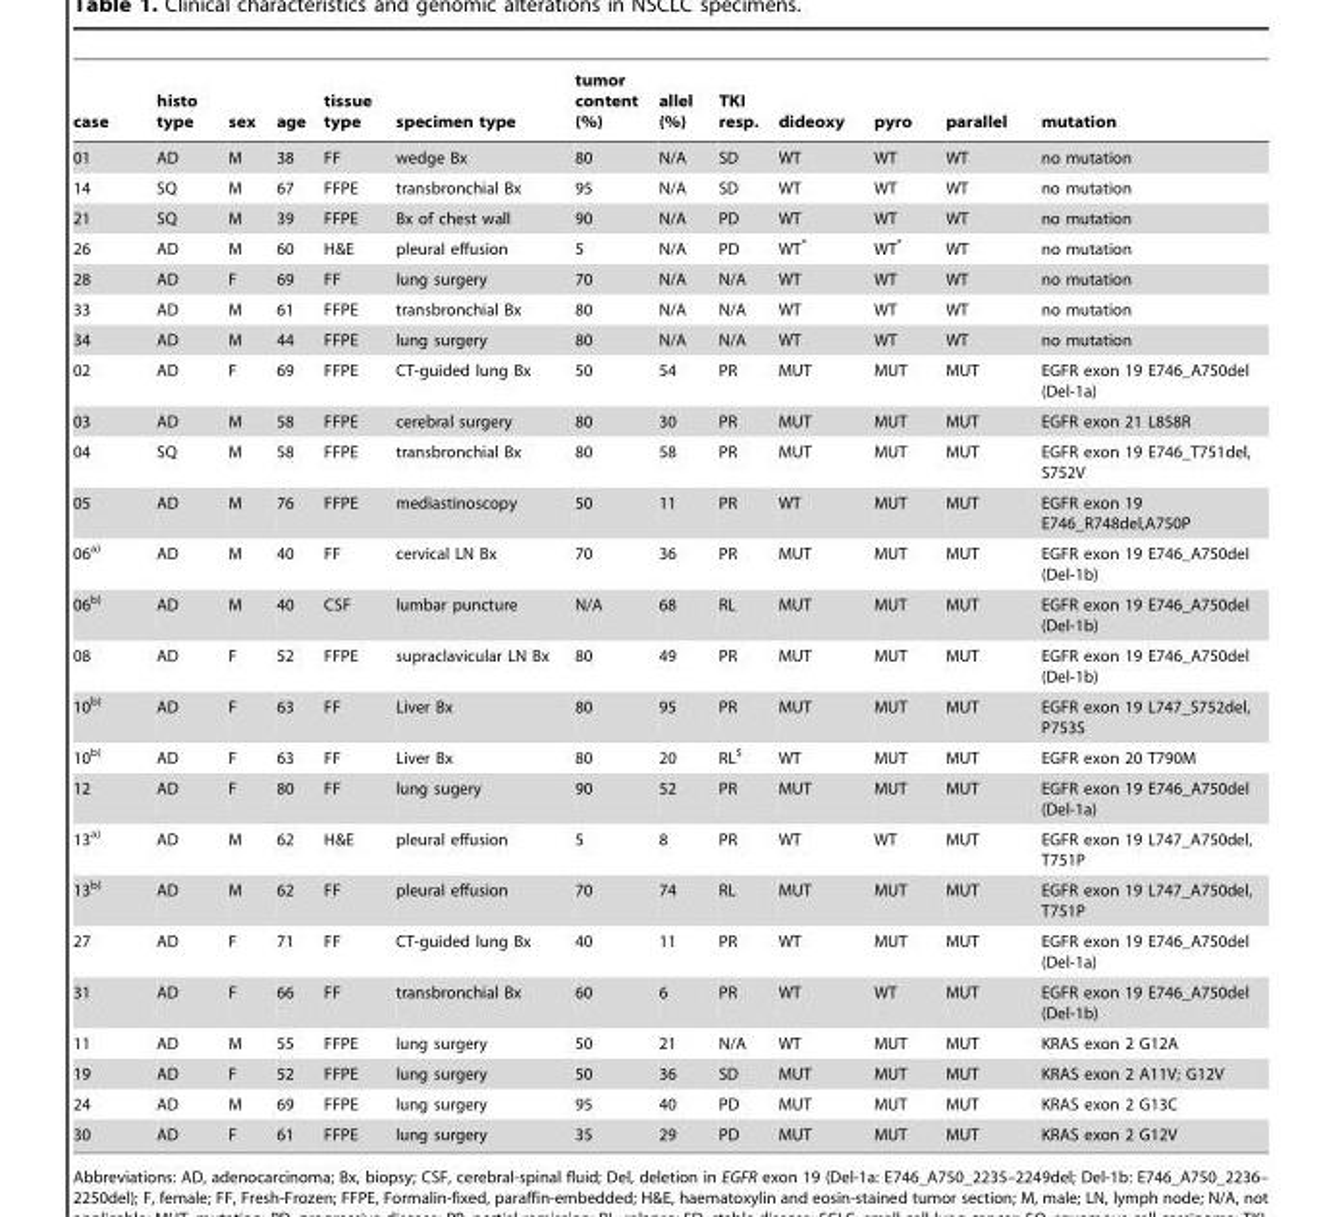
<table><thead><tr><td>case</td><td>histo type</td><td>sex</td><td>age</td><td>tissue type</td><td>specimen type</td><td>tumor content (%)</td><td>allel (%)</td><td>TKI resp.</td><td>dideoxy</td><td>pyro</td><td>parallel</td><td>mutation</td></tr></thead><tbody><tr><td>01</td><td>AD</td><td>M</td><td>38</td><td>FF</td><td>wedge Bx</td><td>80</td><td>N/A</td><td>SD</td><td>WT</td><td>WT</td><td>WT</td><td>no mutation</td></tr><tr><td>14</td><td>SQ</td><td>M</td><td>67</td><td>FFPE</td><td>transbronchial Bx</td><td>95</td><td>N/A</td><td>SD</td><td>WT</td><td>WT</td><td>WT</td><td>no mutation</td></tr><tr><td>21</td><td>SQ</td><td>M</td><td>39</td><td>FFPE</td><td>Bx of chest wall</td><td>90</td><td>N/A</td><td>PD</td><td>WT</td><td>WT</td><td>WT</td><td>no mutation</td></tr><tr><td>26</td><td>AD</td><td>M</td><td>60</td><td>H&amp;E</td><td>pleural effusion</td><td>5</td><td>N/A</td><td>PD</td><td>WT*</td><td>WT*</td><td>WT</td><td>no mutation</td></tr><tr><td>28</td><td>AD</td><td>F</td><td>69</td><td>FF</td><td>lung surgery</td><td>70</td><td>N/A</td><td>N/A</td><td>WT</td><td>WT</td><td>WT</td><td>no mutation</td></tr><tr><td>33</td><td>AD</td><td>M</td><td>61</td><td>FFPE</td><td>transbronchial Bx</td><td>80</td><td>N/A</td><td>N/A</td><td>WT</td><td>WT</td><td>WT</td><td>no mutation</td></tr><tr><td>34</td><td>AD</td><td>M</td><td>44</td><td>FFPE</td><td>lung surgery</td><td>80</td><td>N/A</td><td>N/A</td><td>WT</td><td>WT</td><td>WT</td><td>no mutation</td></tr><tr><td>02</td><td>AD</td><td>F</td><td>69</td><td>FFPE</td><td>CT-guided lung Bx</td><td>50</td><td>54</td><td>PR</td><td>MUT</td><td>MUT</td><td>MUT</td><td>EGFR exon 19 E746_A750del (Del-1a)</td></tr><tr><td>03</td><td>AD</td><td>M</td><td>58</td><td>FFPE</td><td>cerebral surgery</td><td>80</td><td>30</td><td>PR</td><td>MUT</td><td>MUT</td><td>MUT</td><td>EGFR exon 21 L858R</td></tr><tr><td>04</td><td>SQ</td><td>M</td><td>58</td><td>FFPE</td><td>transbronchial Bx</td><td>80</td><td>58</td><td>PR</td><td>MUT</td><td>MUT</td><td>MUT</td><td>EGFR exon 19 E746_T751del, S752V</td></tr><tr><td>05</td><td>AD</td><td>M</td><td>76</td><td>FFPE</td><td>mediastinoscopy</td><td>50</td><td>11</td><td>PR</td><td>WT</td><td>MUT</td><td>MUT</td><td>EGFR exon 19 E746_R748del,A750P</td></tr><tr><td>06a)</td><td>AD</td><td>M</td><td>40</td><td>FF</td><td>cervical LN Bx</td><td>70</td><td>36</td><td>PR</td><td>MUT</td><td>MUT</td><td>MUT</td><td>EGFR exon 19 E746_A750del (Del-1b)</td></tr><tr><td>06b)</td><td>AD</td><td>M</td><td>40</td><td>CSF</td><td>lumbar puncture</td><td>N/A</td><td>68</td><td>RL</td><td>MUT</td><td>MUT</td><td>MUT</td><td>EGFR exon 19 E746_A750del (Del-1b)</td></tr><tr><td>08</td><td>AD</td><td>F</td><td>52</td><td>FFPE</td><td>supraclavicular LN Bx</td><td>80</td><td>49</td><td>PR</td><td>MUT</td><td>MUT</td><td>MUT</td><td>EGFR exon 19 E746_A750del (Del-1b)</td></tr><tr><td>10b)</td><td>AD</td><td>F</td><td>63</td><td>FF</td><td>Liver Bx</td><td>80</td><td>95</td><td>PR</td><td>MUT</td><td>MUT</td><td>MUT</td><td>EGFR exon 19 L747_S752del, P753S</td></tr><tr><td>10b)</td><td>AD</td><td>F</td><td>63</td><td>FF</td><td>Liver Bx</td><td>80</td><td>20</td><td>RL$</td><td>WT</td><td>MUT</td><td>MUT</td><td>EGFR exon 20 T790M</td></tr><tr><td>12</td><td>AD</td><td>F</td><td>80</td><td>FF</td><td>lung sugery</td><td>90</td><td>52</td><td>PR</td><td>MUT</td><td>MUT</td><td>MUT</td><td>EGFR exon 19 E746_A750del (Del-1a)</td></tr><tr><td>13a)</td><td>AD</td><td>M</td><td>62</td><td>H&amp;E</td><td>pleural effusion</td><td>5</td><td>8</td><td>PR</td><td>WT</td><td>WT</td><td>MUT</td><td>EGFR exon 19 L747_A750del, T751P</td></tr><tr><td>13b)</td><td>AD</td><td>M</td><td>62</td><td>FF</td><td>pleural effusion</td><td>70</td><td>74</td><td>RL</td><td>MUT</td><td>MUT</td><td>MUT</td><td>EGFR exon 19 L747_A750del, T751P</td></tr><tr><td>27</td><td>AD</td><td>F</td><td>71</td><td>FF</td><td>CT-guided lung Bx</td><td>40</td><td>11</td><td>PR</td><td>WT</td><td>MUT</td><td>MUT</td><td>EGFR exon 19 E746_A750del (Del-1a)</td></tr><tr><td>31</td><td>AD</td><td>F</td><td>66</td><td>FF</td><td>transbronchial Bx</td><td>60</td><td>6</td><td>PR</td><td>WT</td><td>WT</td><td>MUT</td><td>EGFR exon 19 E746_A750del (Del-1b)</td></tr><tr><td>11</td><td>AD</td><td>M</td><td>55</td><td>FFPE</td><td>lung surgery</td><td>50</td><td>21</td><td>N/A</td><td>WT</td><td>MUT</td><td>MUT</td><td>KRAS exon 2 G12A</td></tr><tr><td>19</td><td>AD</td><td>F</td><td>52</td><td>FFPE</td><td>lung surgery</td><td>50</td><td>36</td><td>SD</td><td>MUT</td><td>MUT</td><td>MUT</td><td>KRAS exon 2 A11V; G12V</td></tr><tr><td>24</td><td>AD</td><td>M</td><td>69</td><td>FFPE</td><td>lung surgery</td><td>95</td><td>40</td><td>PD</td><td>MUT</td><td>MUT</td><td>MUT</td><td>KRAS exon 2 G13C</td></tr><tr><td>30</td><td>AD</td><td>F</td><td>61</td><td>FFPE</td><td>lung surgery</td><td>35</td><td>29</td><td>PD</td><td>MUT</td><td>MUT</td><td>MUT</td><td>KRAS exon 2 G12V</td></tr></tbody></table>